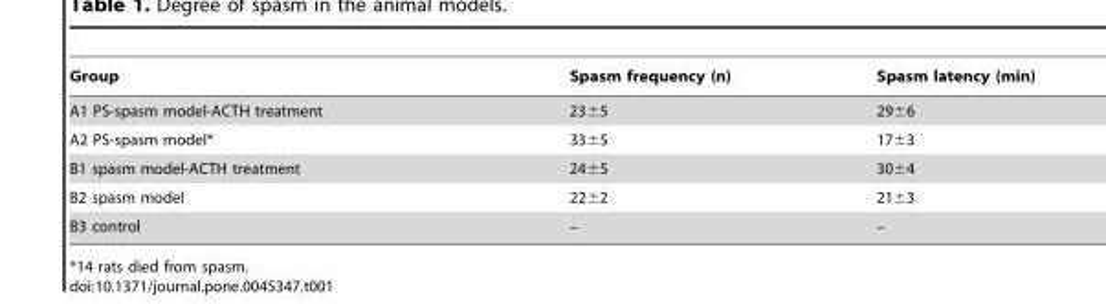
<table><thead><tr><td>Group</td><td>Spasm frequency (n)</td><td>Spasm latency (min)</td></tr></thead><tbody><tr><td>A1 PS-spasm model-ACTH treatment</td><td>23±5</td><td>29±6</td></tr><tr><td>A2 PS-spasm model*</td><td>33±5</td><td>17±3</td></tr><tr><td>B1 spasm model-ACTH treatment</td><td>24±5</td><td>30±4</td></tr><tr><td>B2 spasm model</td><td>22±2</td><td>21±3</td></tr><tr><td>B3 control</td><td>–</td><td>–</td></tr></tbody></table>